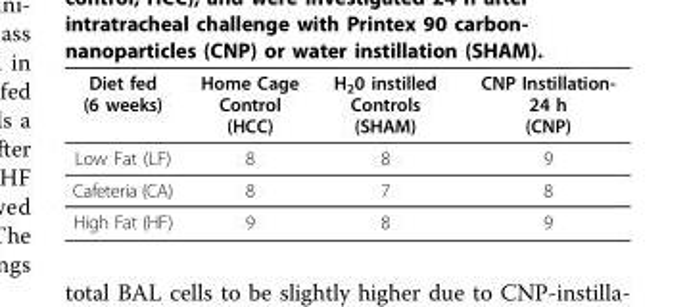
<table><thead><tr><td>Diet fed (6 weeks)</td><td>Home Cage Control (HCC)</td><td>H<sub>2</sub>0 instilled Controls (SHAM)</td><td>CNP Instillation- 24 h (CNP)</td></tr></thead><tbody><tr><td>Low Fat (LF)</td><td>8</td><td>8</td><td>9</td></tr><tr><td>Cafeteria (CA)</td><td>8</td><td>7</td><td>8</td></tr><tr><td>High Fat (HF)</td><td>9</td><td>8</td><td>9</td></tr></tbody></table>